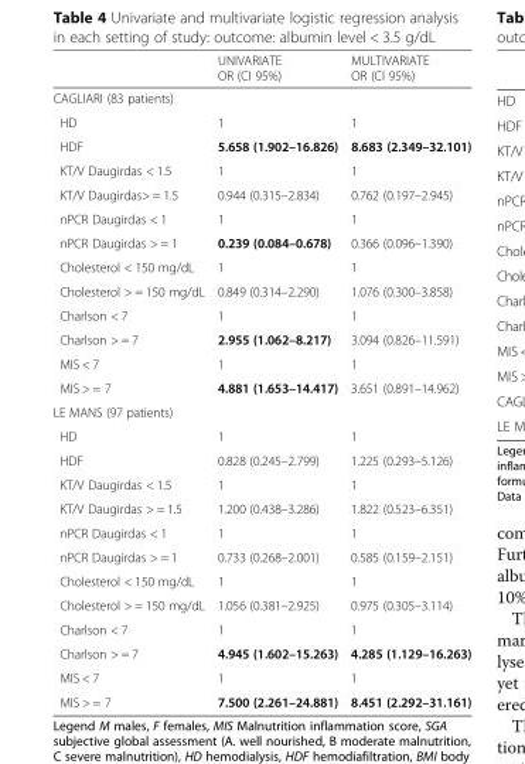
<table><thead><tr><td></td><td>UNIVARIATE OR (CI 95%)</td><td>MULTIVARIATE OR (CI 95%)</td></tr></thead><tbody><tr><td colspan="3">CAGLIARI (83 patients)</td></tr><tr><td>HD</td><td>1</td><td>1</td></tr><tr><td>HDF</td><td>5.658 (1.902–16.826)</td><td>8.683 (2.349–32.101)</td></tr><tr><td>KT/V Daugirdas &lt; 1.5</td><td>1</td><td>1</td></tr><tr><td>KT/V Daugirdas&gt; = 1.5</td><td>0.944 (0.315–2.834)</td><td>0.762 (0.197–2.945)</td></tr><tr><td>nPCR Daugirdas &lt; 1</td><td>1</td><td>1</td></tr><tr><td>nPCR Daugirdas &gt; = 1</td><td>0.239 (0.084–0.678)</td><td>0.366 (0.096–1.390)</td></tr><tr><td>Cholesterol &lt; 150 mg/dL</td><td>1</td><td>1</td></tr><tr><td>Cholesterol &gt; = 150 mg/dL</td><td>0.849 (0.314–2.290)</td><td>1.076 (0.300–3.858)</td></tr><tr><td>Charlson &lt; 7</td><td>1</td><td>1</td></tr><tr><td>Charlson &gt; = 7</td><td>2.955 (1.062–8.217)</td><td>3.094 (0.826–11.591)</td></tr><tr><td>MIS &lt; 7</td><td>1</td><td>1</td></tr><tr><td>MIS &gt; = 7</td><td>4.881 (1.653–14.417)</td><td>3.651 (0.891–14.962)</td></tr><tr><td colspan="3">LE MANS (97 patients)</td></tr><tr><td>HD</td><td>1</td><td>1</td></tr><tr><td>HDF</td><td>0.828 (0.245–2.799)</td><td>1.225 (0.293–5.126)</td></tr><tr><td>KT/V Daugirdas &lt; 1.5</td><td>1</td><td>1</td></tr><tr><td>KT/V Daugirdas &gt; = 1.5</td><td>1.200 (0.438–3.286)</td><td>1.822 (0.523–6.351)</td></tr><tr><td>nPCR Daugirdas &lt; 1</td><td>1</td><td>1</td></tr><tr><td>nPCR Daugirdas &gt; = 1</td><td>0.733 (0.268–2.001)</td><td>0.585 (0.159–2.151)</td></tr><tr><td>Cholesterol &lt; 150 mg/dL</td><td>1</td><td>1</td></tr><tr><td>Cholesterol &gt; = 150 mg/dL</td><td>1.056 (0.381–2.925)</td><td>0.975 (0.305–3.114)</td></tr><tr><td>Charlson &lt; 7</td><td>1</td><td>1</td></tr><tr><td>Charlson &gt; = 7</td><td>4.945 (1.602–15.263)</td><td>4.285 (1.129–16.263)</td></tr><tr><td>MIS &lt; 7</td><td>1</td><td>1</td></tr><tr><td>MIS &gt; = 7</td><td>7.500 (2.261–24.881)</td><td>8.451 (2.292–31.161)</td></tr></tbody></table>